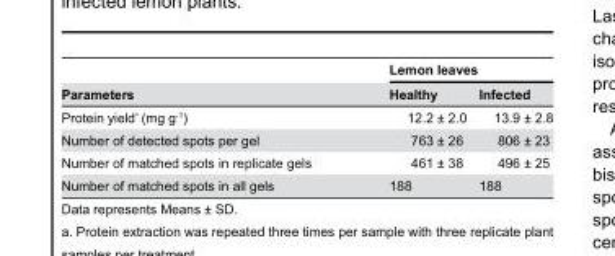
<table><thead><tr><td rowspan="2">Parameters</td><td colspan="2">Lemon leaves</td></tr><tr><td>Healthy</td><td>Infected</td></tr></thead><tbody><tr><td>Protein yield <sup>a</sup> (mg g<sup>-1</sup>)</td><td>12.2 ± 2.0</td><td>13.9 ± 2.8</td></tr><tr><td>Number of detected spots per gel</td><td>763 ± 26</td><td>806 ± 23</td></tr><tr><td>Number of matched spots in replicate gels</td><td>461 ± 38</td><td>496 ± 25</td></tr><tr><td>Number of matched spots in all gels</td><td>188</td><td>188</td></tr></tbody></table>